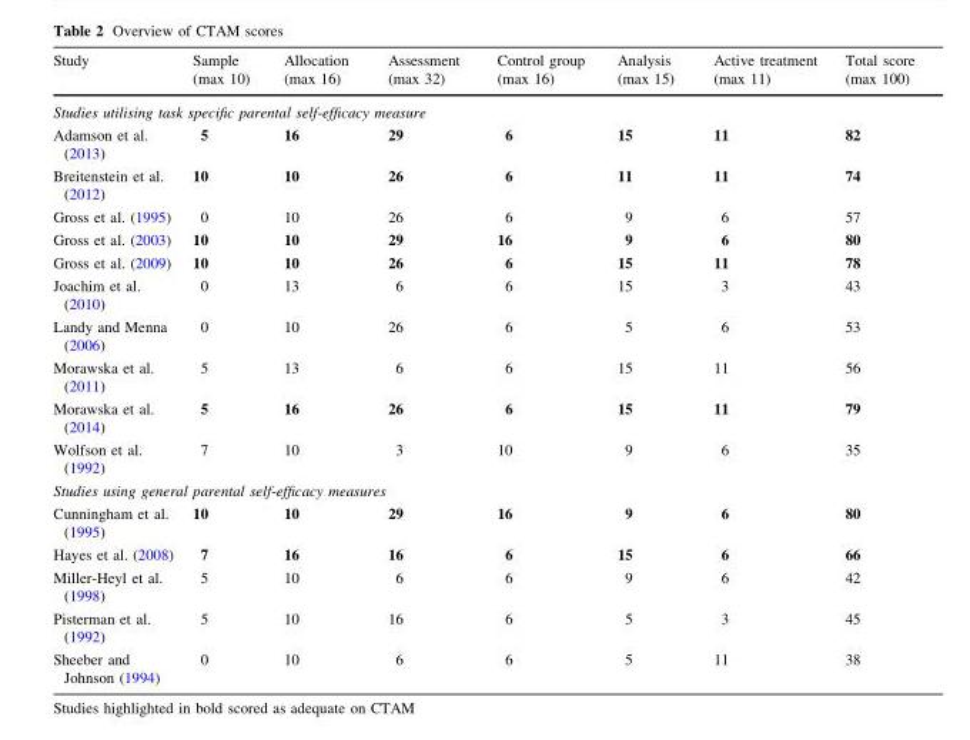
<table><thead><tr><td>Study</td><td>Sample (max 10)</td><td>Allocation (max 16)</td><td>Assessment (max 32)</td><td>Control group (max 16)</td><td>Analysis (max 15)</td><td>Active treatment (max 11)</td><td>Total score (max 100)</td></tr></thead><tbody><tr><td colspan="8">Studies utilising task specific parental self-efficacy measure</td></tr><tr><td>Adamson et al. (2013)</td><td>5</td><td>16</td><td>29</td><td>6</td><td>15</td><td>11</td><td>82</td></tr><tr><td>Breitenstein et al. (2012)</td><td>10</td><td>10</td><td>26</td><td>6</td><td>11</td><td>11</td><td>74</td></tr><tr><td>Gross et al. (1995)</td><td>0</td><td>10</td><td>26</td><td>6</td><td>9</td><td>6</td><td>57</td></tr><tr><td>Gross et al. (2003)</td><td>10</td><td>10</td><td>29</td><td>16</td><td>9</td><td>6</td><td>80</td></tr><tr><td>Gross et al. (2009)</td><td>10</td><td>10</td><td>26</td><td>6</td><td>15</td><td>11</td><td>78</td></tr><tr><td>Joachim et al. (2010)</td><td>0</td><td>13</td><td>6</td><td>6</td><td>15</td><td>3</td><td>43</td></tr><tr><td>Landy and Menna (2006)</td><td>0</td><td>10</td><td>26</td><td>6</td><td>5</td><td>6</td><td>53</td></tr><tr><td>Morawska et al. (2011)</td><td>5</td><td>13</td><td>6</td><td>6</td><td>15</td><td>11</td><td>56</td></tr><tr><td>Morawska et al. (2014)</td><td>5</td><td>16</td><td>26</td><td>6</td><td>15</td><td>11</td><td>79</td></tr><tr><td>Wolfson et al. (1992)</td><td>7</td><td>10</td><td>3</td><td>10</td><td>9</td><td>6</td><td>35</td></tr><tr><td colspan="8">Studies using general parental self-efficacy measures</td></tr><tr><td>Cunningham et al. (1995)</td><td>10</td><td>10</td><td>29</td><td>16</td><td>9</td><td>6</td><td>80</td></tr><tr><td>Hayes et al. (2008)</td><td>7</td><td>16</td><td>16</td><td>6</td><td>15</td><td>6</td><td>66</td></tr><tr><td>Miller-Heyl et al. (1998)</td><td>5</td><td>10</td><td>6</td><td>6</td><td>9</td><td>6</td><td>42</td></tr><tr><td>Pisterman et al. (1992)</td><td>5</td><td>10</td><td>16</td><td>6</td><td>5</td><td>3</td><td>45</td></tr><tr><td>Sheeber and Johnson (1994)</td><td>0</td><td>10</td><td>6</td><td>6</td><td>5</td><td>11</td><td>38</td></tr></tbody></table>